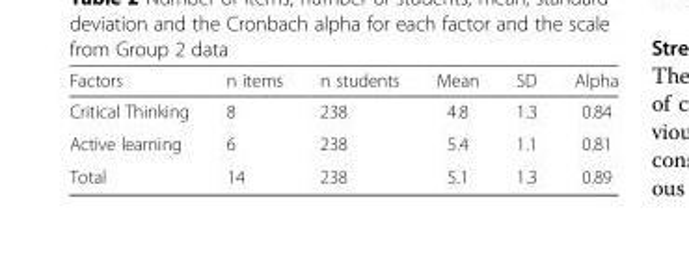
<table><thead><tr><td>Factors</td><td>n items</td><td>n students</td><td>Mean</td><td>SD</td><td>Alpha</td></tr></thead><tbody><tr><td>Critical Thinking</td><td>8</td><td>238</td><td>4.8</td><td>1.3</td><td>0.84</td></tr><tr><td>Active learning</td><td>6</td><td>238</td><td>5.4</td><td>1.1</td><td>0.81</td></tr><tr><td>Total</td><td>14</td><td>238</td><td>5.1</td><td>1.3</td><td>0.89</td></tr></tbody></table>